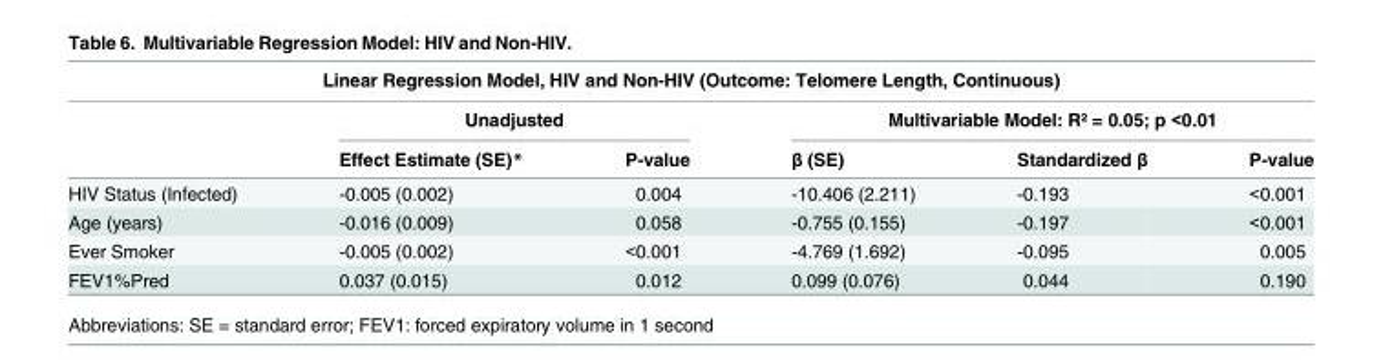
<table><thead><tr><td colspan="6">Linear Regression Model, HIV and Non-HIV (Outcome: Telomere Length, Continuous)</td></tr><tr><td rowspan="2"></td><td colspan="2">Unadjusted</td><td colspan="3">Multivariable Model: R² = 0.05; p &lt;0.01</td></tr><tr><td>Effect Estimate (SE)*</td><td>P-value</td><td>β (SE)</td><td>Standardized β</td><td>P-value</td></tr></thead><tbody><tr><td>HIV Status (Infected)</td><td>-0.005 (0.002)</td><td>0.004</td><td>-10.406 (2.211)</td><td>-0.193</td><td>&lt;0.001</td></tr><tr><td>Age (years)</td><td>-0.016 (0.009)</td><td>0.058</td><td>-0.755 (0.155)</td><td>-0.197</td><td>&lt;0.001</td></tr><tr><td>Ever Smoker</td><td>-0.005 (0.002)</td><td>&lt;0.001</td><td>-4.769 (1.692)</td><td>-0.095</td><td>0.005</td></tr><tr><td>FEV1%Pred</td><td>0.037 (0.015)</td><td>0.012</td><td>0.099 (0.076)</td><td>0.044</td><td>0.190</td></tr></tbody></table>